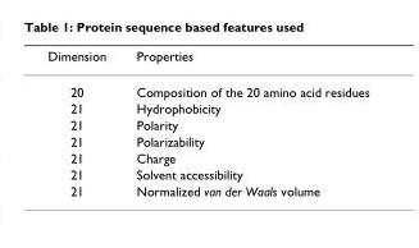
<table><thead><tr><td>Dimension</td><td>Properties</td></tr></thead><tbody><tr><td>20</td><td>Composition of the 20 amino acid residues</td></tr><tr><td>21</td><td>Hydrophobicity</td></tr><tr><td>21</td><td>Polarity</td></tr><tr><td>21</td><td>Polarizability</td></tr><tr><td>21</td><td>Charge</td></tr><tr><td>21</td><td>Solvent accessibility</td></tr><tr><td>21</td><td>Normalized van der Waals volume</td></tr></tbody></table>